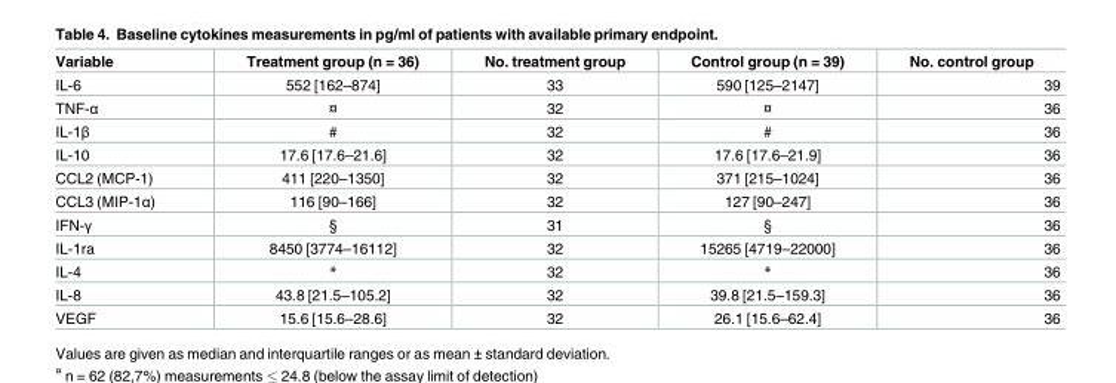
<table><thead><tr><td>Variable</td><td>Treatment group (n = 36)</td><td>No. treatment group</td><td>Control group (n = 39)</td><td>No. control group</td></tr></thead><tbody><tr><td>IL-6</td><td>552 [162–874]</td><td>33</td><td>590 [125–2147]</td><td>39</td></tr><tr><td>TNF-α</td><td>¤</td><td>32</td><td>¤</td><td>36</td></tr><tr><td>IL-1β</td><td>#</td><td>32</td><td>#</td><td>36</td></tr><tr><td>IL-10</td><td>17.6 [17.6–21.6]</td><td>32</td><td>17.6 [17.6–21.9]</td><td>36</td></tr><tr><td>CCL2 (MCP-1)</td><td>411 [220–1350]</td><td>32</td><td>371 [215–1024]</td><td>36</td></tr><tr><td>CCL3 (MIP-1α)</td><td>116 [90–166]</td><td>32</td><td>127 [90–247]</td><td>36</td></tr><tr><td>IFN-γ</td><td>§</td><td>31</td><td>§</td><td>36</td></tr><tr><td>IL-1ra</td><td>8450 [3774–16112]</td><td>32</td><td>15265 [4719–22000]</td><td>36</td></tr><tr><td>IL-4</td><td>*</td><td>32</td><td>*</td><td>36</td></tr><tr><td>IL-8</td><td>43.8 [21.5–105.2]</td><td>32</td><td>39.8 [21.5–159.3]</td><td>36</td></tr><tr><td>VEGF</td><td>15.6 [15.6–28.6]</td><td>32</td><td>26.1 [15.6–62.4]</td><td>36</td></tr></tbody></table>